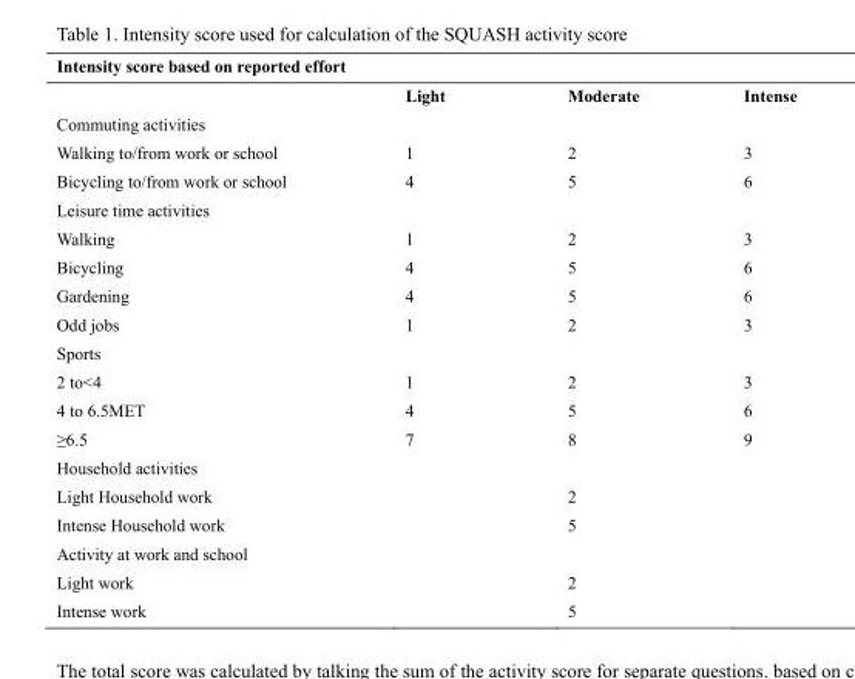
<table><thead><tr><td colspan="4">Intensity score based on reported effort</td></tr><tr><td></td><td>Light</td><td>Moderate</td><td>Intense</td></tr></thead><tbody><tr><td colspan="4">Commuting activities</td></tr><tr><td>Walking to/from work or school</td><td>1</td><td>2</td><td>3</td></tr><tr><td>Bicycling to/from work or school</td><td>4</td><td>5</td><td>6</td></tr><tr><td colspan="4">Leisure time activities</td></tr><tr><td>Walking</td><td>1</td><td>2</td><td>3</td></tr><tr><td>Bicycling</td><td>4</td><td>5</td><td>6</td></tr><tr><td>Gardening</td><td>4</td><td>5</td><td>6</td></tr><tr><td>Odd jobs</td><td>1</td><td>2</td><td>3</td></tr><tr><td colspan="4">Sports</td></tr><tr><td>2 to&lt;4</td><td>1</td><td>2</td><td>3</td></tr><tr><td>4 to 6.5MET</td><td>4</td><td>5</td><td>6</td></tr><tr><td>≥6.5</td><td>7</td><td>8</td><td>9</td></tr><tr><td colspan="4">Household activities</td></tr><tr><td>Light Household work</td><td></td><td>2</td><td></td></tr><tr><td>Intense Household work</td><td></td><td>5</td><td></td></tr><tr><td colspan="4">Activity at work and school</td></tr><tr><td>Light work</td><td></td><td>2</td><td></td></tr><tr><td>Intense work</td><td></td><td>5</td><td></td></tr></tbody></table>